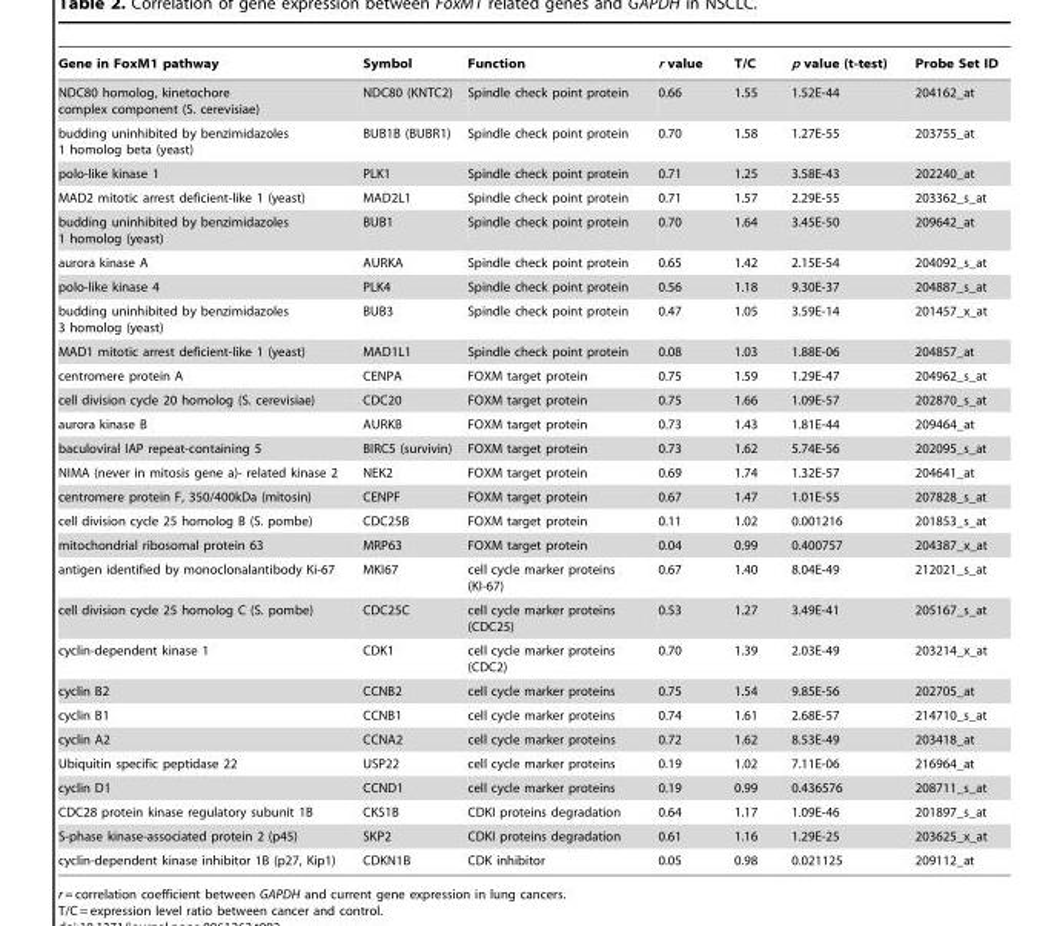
<table><thead><tr><td>Gene in FoxM1 pathway</td><td>Symbol</td><td>Function</td><td>r value</td><td>T/C</td><td>p value (t-test)</td><td>Probe Set ID</td></tr></thead><tbody><tr><td>NDC80 homolog, kinetochore complex component (S. cerevisiae)</td><td>NDC80 (KNTC2)</td><td>Spindle check point protein</td><td>0.66</td><td>1.55</td><td>1.52E-44</td><td>204162_at</td></tr><tr><td>budding uninhibited by benzimidazoles 1 homolog beta (yeast)</td><td>BUB1B (BUBR1)</td><td>Spindle check point protein</td><td>0.70</td><td>1.58</td><td>1.27E-55</td><td>203755_at</td></tr><tr><td>polo-like kinase 1</td><td>PLK1</td><td>Spindle check point protein</td><td>0.71</td><td>1.25</td><td>3.58E-43</td><td>202240_at</td></tr><tr><td>MAD2 mitotic arrest deficient-like 1 (yeast)</td><td>MAD2L1</td><td>Spindle check point protein</td><td>0.71</td><td>1.57</td><td>2.29E-55</td><td>203362_s_at</td></tr><tr><td>budding uninhibited by benzimidazoles 1 homolog (yeast)</td><td>BUB1</td><td>Spindle check point protein</td><td>0.70</td><td>1.64</td><td>3.45E-50</td><td>209642_at</td></tr><tr><td>aurora kinase A</td><td>AURKA</td><td>Spindle check point protein</td><td>0.65</td><td>1.42</td><td>2.15E-54</td><td>204092_s_at</td></tr><tr><td>polo-like kinase 4</td><td>PLK4</td><td>Spindle check point protein</td><td>0.56</td><td>1.18</td><td>9.30E-37</td><td>204887_s_at</td></tr><tr><td>budding uninhibited by benzimidazoles 3 homolog (yeast)</td><td>BUB3</td><td>Spindle check point protein</td><td>0.47</td><td>1.05</td><td>3.59E-14</td><td>201457_x_at</td></tr><tr><td>MAD1 mitotic arrest deficient-like 1 (yeast)</td><td>MAD1L1</td><td>Spindle check point protein</td><td>0.08</td><td>1.03</td><td>1.88E-06</td><td>204857_at</td></tr><tr><td>centromere protein A</td><td>CENPA</td><td>FOXM target protein</td><td>0.75</td><td>1.59</td><td>1.29E-47</td><td>204962_s_at</td></tr><tr><td>cell division cycle 20 homolog (S. cerevisiae)</td><td>CDC20</td><td>FOXM target protein</td><td>0.75</td><td>1.66</td><td>1.09E-57</td><td>202870_s_at</td></tr><tr><td>aurora kinase B</td><td>AURKB</td><td>FOXM target protein</td><td>0.73</td><td>1.43</td><td>1.81E-44</td><td>209464_at</td></tr><tr><td>baculoviral IAP repeat-containing 5</td><td>BIRC5 (survivin)</td><td>FOXM target protein</td><td>0.73</td><td>1.62</td><td>5.74E-56</td><td>202095_s_at</td></tr><tr><td>NIMA (never in mitosis gene a)- related kinase 2</td><td>NEK2</td><td>FOXM target protein</td><td>0.69</td><td>1.74</td><td>1.32E-57</td><td>204641_at</td></tr><tr><td>centromere protein F, 350/400kDa (mitosin)</td><td>CENPF</td><td>FOXM target protein</td><td>0.67</td><td>1.47</td><td>1.01E-55</td><td>207828_s_at</td></tr><tr><td>cell division cycle 25 homolog B (S. pombe)</td><td>CDC25B</td><td>FOXM target protein</td><td>0.11</td><td>1.02</td><td>0.001216</td><td>201853_s_at</td></tr><tr><td>mitochondrial ribosomal protein 63</td><td>MRP63</td><td>FOXM target protein</td><td>0.04</td><td>0.99</td><td>0.400757</td><td>204387_x_at</td></tr><tr><td>antigen identified by monoclonalantibody Ki-67</td><td>MKI67</td><td>cell cycle marker proteins (KI-67)</td><td>0.67</td><td>1.40</td><td>8.04E-49</td><td>212021_s_at</td></tr><tr><td>cell division cycle 25 homolog C (S. pombe)</td><td>CDC25C</td><td>cell cycle marker proteins (CDC25)</td><td>0.53</td><td>1.27</td><td>3.49E-41</td><td>205167_s_at</td></tr><tr><td>cyclin-dependent kinase 1</td><td>CDK1</td><td>cell cycle marker proteins (CDC2)</td><td>0.70</td><td>1.39</td><td>2.03E-49</td><td>203214_x_at</td></tr><tr><td>cyclin B2</td><td>CCNB2</td><td>cell cycle marker proteins</td><td>0.75</td><td>1.54</td><td>9.85E-56</td><td>202705_at</td></tr><tr><td>cyclin B1</td><td>CCNB1</td><td>cell cycle marker proteins</td><td>0.74</td><td>1.61</td><td>2.68E-57</td><td>214710_s_at</td></tr><tr><td>cyclin A2</td><td>CCNA2</td><td>cell cycle marker proteins</td><td>0.72</td><td>1.62</td><td>8.53E-49</td><td>203418_at</td></tr><tr><td>Ubiquitin specific peptidase 22</td><td>USP22</td><td>cell cycle marker proteins</td><td>0.19</td><td>1.02</td><td>7.11E-06</td><td>216964_at</td></tr><tr><td>cyclin D1</td><td>CCND1</td><td>cell cycle marker proteins</td><td>0.19</td><td>0.99</td><td>0.436576</td><td>208711_s_at</td></tr><tr><td>CDC28 protein kinase regulatory subunit 1B</td><td>CKS1B</td><td>CDKI proteins degradation</td><td>0.64</td><td>1.17</td><td>1.09E-46</td><td>201897_s_at</td></tr><tr><td>S-phase kinase-associated protein 2 (p45)</td><td>SKP2</td><td>CDKI proteins degradation</td><td>0.61</td><td>1.16</td><td>1.29E-25</td><td>203625_x_at</td></tr><tr><td>cyclin-dependent kinase inhibitor 1B (p27, Kip1)</td><td>CDKN1B</td><td>CDK inhibitor</td><td>0.05</td><td>0.98</td><td>0.021125</td><td>209112_at</td></tr></tbody></table>